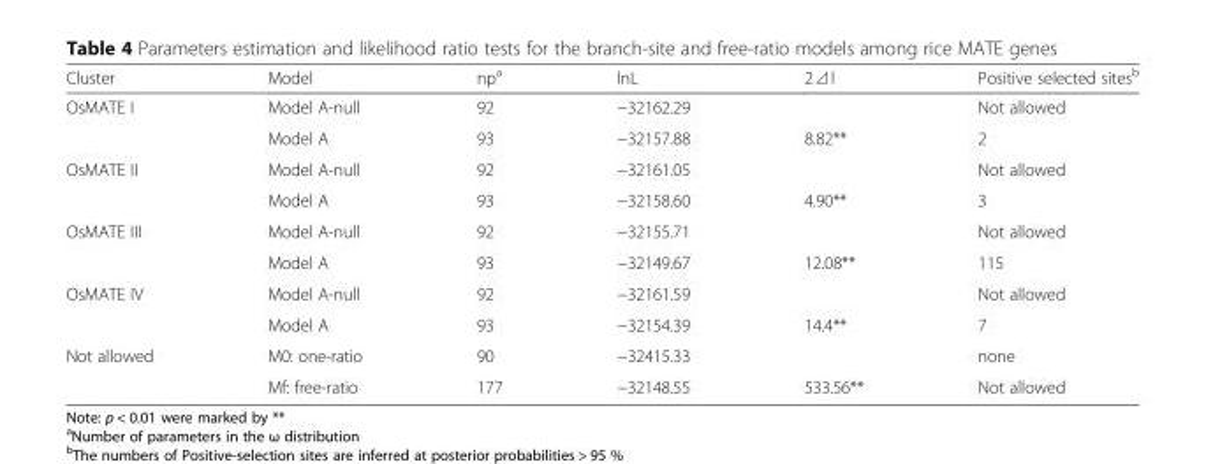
<table><thead><tr><td>Cluster</td><td>Model</td><td>np<sup>a</sup></td><td>lnL</td><td>2⊿l</td><td>Positive selected sites<sup>b</sup></td></tr></thead><tbody><tr><td rowspan="2">OsMATE I</td><td>Model A-null</td><td>92</td><td>−32162.29</td><td></td><td>Not allowed</td></tr><tr><td>Model A</td><td>93</td><td>−32157.88</td><td>8.82**</td><td>2</td></tr><tr><td rowspan="2">OsMATE II</td><td>Model A-null</td><td>92</td><td>−32161.05</td><td></td><td>Not allowed</td></tr><tr><td>Model A</td><td>93</td><td>−32158.60</td><td>4.90**</td><td>3</td></tr><tr><td rowspan="2">OsMATE III</td><td>Model A-null</td><td>92</td><td>−32155.71</td><td></td><td>Not allowed</td></tr><tr><td>Model A</td><td>93</td><td>−32149.67</td><td>12.08**</td><td>115</td></tr><tr><td rowspan="2">OsMATE IV</td><td>Model A-null</td><td>92</td><td>−32161.59</td><td></td><td>Not allowed</td></tr><tr><td>Model A</td><td>93</td><td>−32154.39</td><td>14.4**</td><td>7</td></tr><tr><td rowspan="2">Not allowed</td><td>M0: one-ratio</td><td>90</td><td>−32415.33</td><td></td><td>none</td></tr><tr><td>Mf: free-ratio</td><td>177</td><td>−32148.55</td><td>533.56**</td><td>Not allowed</td></tr></tbody></table>